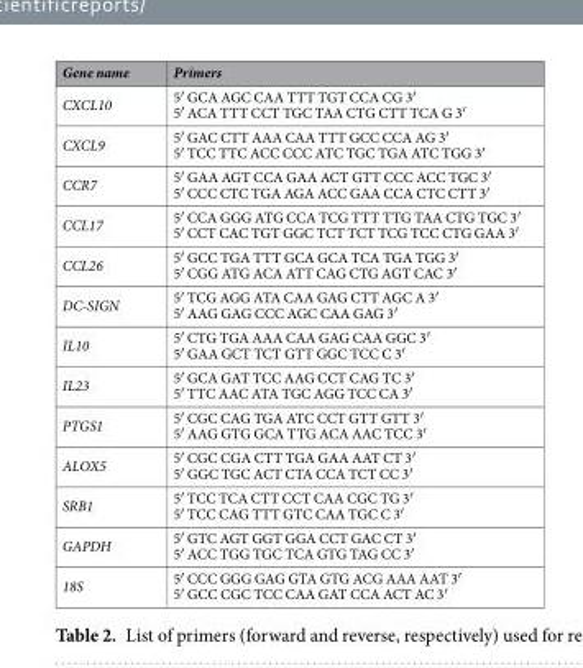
<table><thead><tr><td>Gene name</td><td>Primers</td></tr></thead><tbody><tr><td>CXCL10</td><td>5′ GCA AGC CAA TTT TGT CCA CG 3′ 5′ ACA TTT CCT TGC TAA CTG CTT TCA G 3′</td></tr><tr><td>CXCL9</td><td>5′ GAC CTT AAA CAA TTT GCC CCA AG 3′ 5′ TCC TTC ACC CCC ATC TGC TGA ATC TGG 3′</td></tr><tr><td>CCR7</td><td>5′ GAA AGT CCA GAA ACT GTT CCC ACC TGC 3′ 5′ CCC CTC TGA AGA ACC GAA CCA CTC CTT 3′</td></tr><tr><td>CCL17</td><td>5′ CCA GGG ATG CCA TCG TTT TTG TAA CTG TGC 3′ 5′ CCT CAC TGT GGC TCT TCT TCG TCC CTG GAA 3′</td></tr><tr><td>CCL26</td><td>5′ GCC TGA TTT GCA GCA TCA TGA TGG 3′ 5′ CGG ATG ACA ATT CAG CTG AGT CAC 3′</td></tr><tr><td>DC-SIGN</td><td>5′ TCG AGG ATA CAA GAG CTT AGC A 3′ 5′ AAG GAG CCC AGC CAA GAG 3′</td></tr><tr><td>IL10</td><td>5′ CTG TGA AAA CAA GAG CAA GGC 3′ 5′ GAA GCT TCT GTT GGC TCC C 3′</td></tr><tr><td>IL23</td><td>5′ GCA GAT TCC AAG CCT CAG TC 3′ 5′ TTC AAC ATA TGC AGG TCC CA 3′</td></tr><tr><td>PTGS1</td><td>5′ CGC CAG TGA ATC CCT GTT GTT 3′ 5′ AAG GTG GCA TTG ACA AAC TCC 3′</td></tr><tr><td>ALOX5</td><td>5′ CGC CGA CTT TGA GAA AAT CT 3′ 5′ GGC TGC ACT CTA CCA TCT CC 3′</td></tr><tr><td>SRB1</td><td>5′ TCC TCA CTT CCT CAA CGC TG 3′ 5′ TCC CAG TTT GTC CAA TGC C 3′</td></tr><tr><td>GAPDH</td><td>5′ GTC AGT GGT GGA CCT GAC CT 3′ 5′ ACC TGG TGC TCA GTG TAG CC 3′</td></tr><tr><td>18S</td><td>5′ CCC GGG GAG GTA GTG ACG AAA AAT 3′ 5′ GCC CGC TCC CAA GAT CCA ACT AC 3′</td></tr></tbody></table>